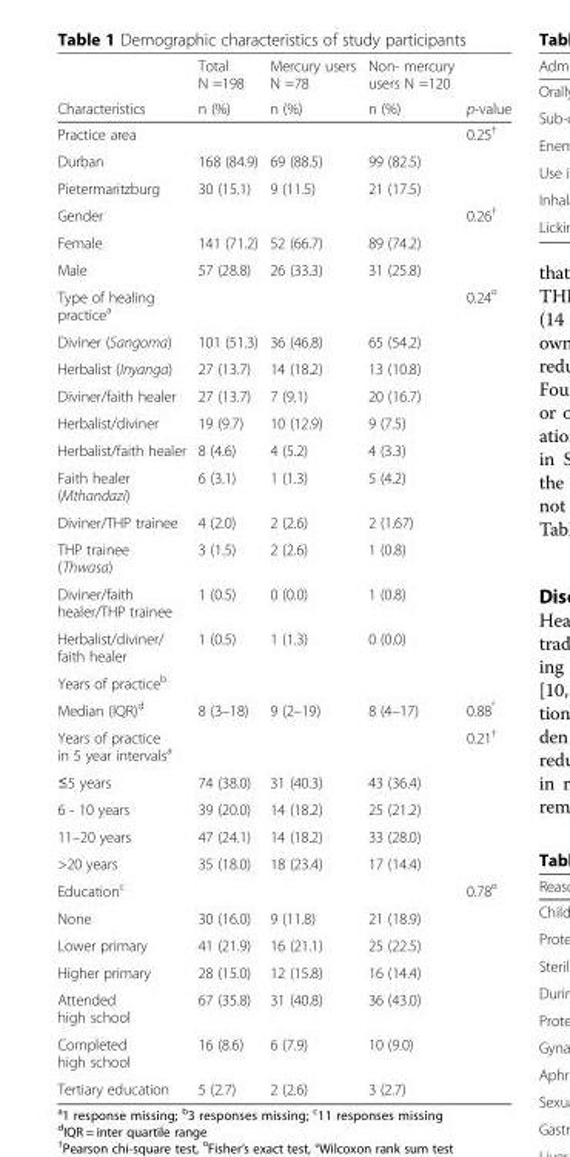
<table><thead><tr><td rowspan="2">Characteristics</td><td rowspan="2">Total N =198 n (%)</td><td rowspan="2">Mercury users N =78 n (%)</td><td rowspan="2">Non- mercury users N =120 n (%)</td><td rowspan="2">p-value</td></tr><tr></tr></thead><tbody><tr><td>Practice area</td><td></td><td></td><td></td><td>0.25<sup>†</sup></td></tr><tr><td>Durban</td><td>168 (84.9)</td><td>69 (88.5)</td><td>99 (82.5)</td><td></td></tr><tr><td>Pietermaritzburg</td><td>30 (15.1)</td><td>9 (11.5)</td><td>21 (17.5)</td><td></td></tr><tr><td>Gender</td><td></td><td></td><td></td><td>0.26<sup>†</sup></td></tr><tr><td>Female</td><td>141 (71.2)</td><td>52 (66.7)</td><td>89 (74.2)</td><td></td></tr><tr><td>Male</td><td>57 (28.8)</td><td>26 (33.3)</td><td>31 (25.8)</td><td></td></tr><tr><td>Type of healing practice<sup>a</sup></td><td></td><td></td><td></td><td>0.24<sup>¤</sup></td></tr><tr><td>Diviner (Sangoma)</td><td>101 (51.3)</td><td>36 (46.8)</td><td>65 (54.2)</td><td></td></tr><tr><td>Herbalist (Inyanga)</td><td>27 (13.7)</td><td>14 (18.2)</td><td>13 (10.8)</td><td></td></tr><tr><td>Diviner/faith healer</td><td>27 (13.7)</td><td>7 (9.1)</td><td>20 (16.7)</td><td></td></tr><tr><td>Herbalist/diviner</td><td>19 (9.7)</td><td>10 (12.9)</td><td>9 (7.5)</td><td></td></tr><tr><td>Herbalist/faith healer</td><td>8 (4.6)</td><td>4 (5.2)</td><td>4 (3.3)</td><td></td></tr><tr><td>Faith healer (Mthandazi)</td><td>6 (3.1)</td><td>1 (1.3)</td><td>5 (4.2)</td><td></td></tr><tr><td>Diviner/THP trainee</td><td>4 (2.0)</td><td>2 (2.6)</td><td>2 (1.67)</td><td></td></tr><tr><td>THP trainee (Thwasa)</td><td>3 (1.5)</td><td>2 (2.6)</td><td>1 (0.8)</td><td></td></tr><tr><td>Diviner/faith healer/THP trainee</td><td>1 (0.5)</td><td>0 (0.0)</td><td>1 (0.8)</td><td></td></tr><tr><td>Herbalist/diviner/ faith healer</td><td>1 (0.5)</td><td>1 (1.3)</td><td>0 (0.0)</td><td></td></tr><tr><td colspan="5">Years of practice<sup>b</sup></td></tr><tr><td>Median (IQR)<sup>d</sup></td><td>8 (3–18)</td><td>9 (2–19)</td><td>8 (4–17)</td><td>0.88<sup>°</sup></td></tr><tr><td>Years of practice in 5 year intervals<sup>a</sup></td><td></td><td></td><td></td><td>0.21<sup>†</sup></td></tr><tr><td>≤5 years</td><td>74 (38.0)</td><td>31 (40.3)</td><td>43 (36.4)</td><td></td></tr><tr><td>6 - 10 years</td><td>39 (20.0)</td><td>14 (18.2)</td><td>25 (21.2)</td><td></td></tr><tr><td>11–20 years</td><td>47 (24.1)</td><td>14 (18.2)</td><td>33 (28.0)</td><td></td></tr><tr><td>&gt;20 years</td><td>35 (18.0)</td><td>18 (23.4)</td><td>17 (14.4)</td><td></td></tr><tr><td>Education<sup>c</sup></td><td></td><td></td><td></td><td>0.78<sup>¤</sup></td></tr><tr><td>None</td><td>30 (16.0)</td><td>9 (11.8)</td><td>21 (18.9)</td><td></td></tr><tr><td>Lower primary</td><td>41 (21.9)</td><td>16 (21.1)</td><td>25 (22.5)</td><td></td></tr><tr><td>Higher primary</td><td>28 (15.0)</td><td>12 (15.8)</td><td>16 (14.4)</td><td></td></tr><tr><td>Attended high school</td><td>67 (35.8)</td><td>31 (40.8)</td><td>36 (43.0)</td><td></td></tr><tr><td>Completed high school</td><td>16 (8.6)</td><td>6 (7.9)</td><td>10 (9.0)</td><td></td></tr><tr><td>Tertiary education</td><td>5 (2.7)</td><td>2 (2.6)</td><td>3 (2.7)</td><td></td></tr></tbody></table>